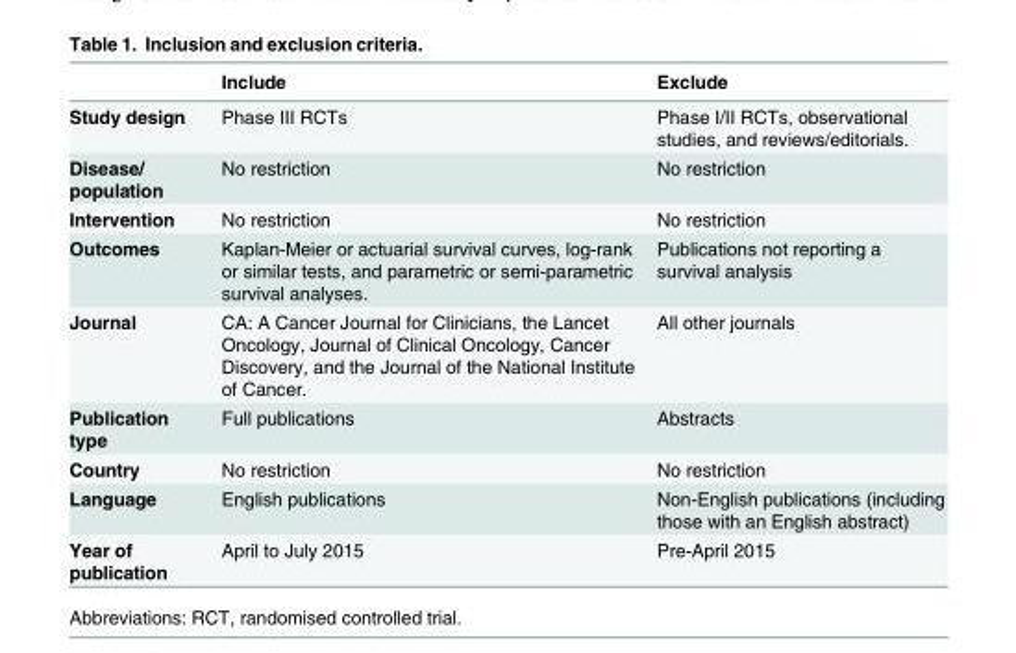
<table><thead><tr><td></td><td>Include</td><td>Exclude</td></tr></thead><tbody><tr><td>Study design</td><td>Phase III RCTs</td><td>Phase I/II RCTs, observational studies, and reviews/editorials.</td></tr><tr><td>Disease/ population</td><td>No restriction</td><td>No restriction</td></tr><tr><td>Intervention</td><td>No restriction</td><td>No restriction</td></tr><tr><td>Outcomes</td><td>Kaplan-Meier or actuarial survival curves, log-rank or similar tests, and parametric or semi-parametric survival analyses.</td><td>Publications not reporting a survival analysis</td></tr><tr><td>Journal</td><td>CA: A Cancer Journal for Clinicians, the Lancet Oncology, Journal of Clinical Oncology, Cancer Discovery, and the Journal of the National Institute of Cancer.</td><td>All other journals</td></tr><tr><td>Publication type</td><td>Full publications</td><td>Abstracts</td></tr><tr><td>Country</td><td>No restriction</td><td>No restriction</td></tr><tr><td>Language</td><td>English publications</td><td>Non-English publications (including those with an English abstract)</td></tr><tr><td>Year of publication</td><td>April to July 2015</td><td>Pre-April 2015</td></tr></tbody></table>